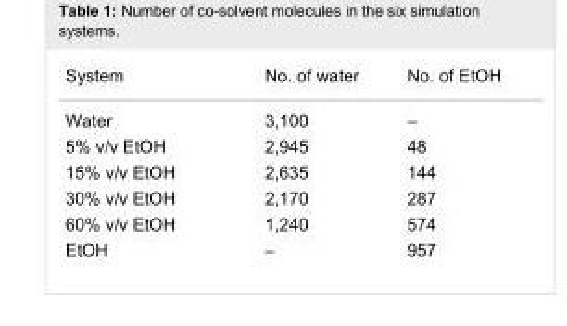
<table><tbody><tr><td>System</td><td>No. of water</td><td>No. of EtOH</td></tr><tr><td>Water</td><td>3,100</td><td>–</td></tr><tr><td>5% v/v EtOH</td><td>2,945</td><td>48</td></tr><tr><td>15% v/v EtOH</td><td>2,635</td><td>144</td></tr><tr><td>30% v/v EtOH</td><td>2,170</td><td>287</td></tr><tr><td>60% v/v EtOH</td><td>1,240</td><td>574</td></tr><tr><td>EtOH</td><td>–</td><td>957</td></tr></tbody></table>